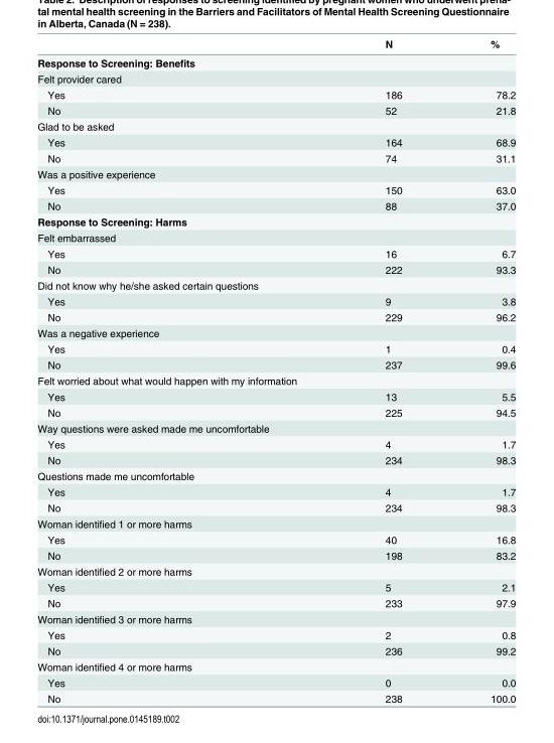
<table><thead><tr><td></td><td>N</td><td>%</td></tr></thead><tbody><tr><td colspan="3">Response to Screening: Benefits</td></tr><tr><td colspan="3">Felt provider cared</td></tr><tr><td>Yes</td><td>186</td><td>78.2</td></tr><tr><td>No</td><td>52</td><td>21.8</td></tr><tr><td colspan="3">Glad to be asked</td></tr><tr><td>Yes</td><td>164</td><td>68.9</td></tr><tr><td>No</td><td>74</td><td>31.1</td></tr><tr><td colspan="3">Was a positive experience</td></tr><tr><td>Yes</td><td>150</td><td>63.0</td></tr><tr><td>No</td><td>88</td><td>37.0</td></tr><tr><td colspan="3">Response to Screening: Harms</td></tr><tr><td colspan="3">Felt embarrassed</td></tr><tr><td>Yes</td><td>16</td><td>6.7</td></tr><tr><td>No</td><td>222</td><td>93.3</td></tr><tr><td colspan="3">Did not know why he/she asked certain questions</td></tr><tr><td>Yes</td><td>9</td><td>3.8</td></tr><tr><td>No</td><td>229</td><td>96.2</td></tr><tr><td colspan="3">Was a negative experience</td></tr><tr><td>Yes</td><td>1</td><td>0.4</td></tr><tr><td>No</td><td>237</td><td>99.6</td></tr><tr><td colspan="3">Felt worried about what would happen with my information</td></tr><tr><td>Yes</td><td>13</td><td>5.5</td></tr><tr><td>No</td><td>225</td><td>94.5</td></tr><tr><td colspan="3">Way questions were asked made me uncomfortable</td></tr><tr><td>Yes</td><td>4</td><td>1.7</td></tr><tr><td>No</td><td>234</td><td>98.3</td></tr><tr><td colspan="3">Questions made me uncomfortable</td></tr><tr><td>Yes</td><td>4</td><td>1.7</td></tr><tr><td>No</td><td>234</td><td>98.3</td></tr><tr><td colspan="3">Woman identified 1 or more harms</td></tr><tr><td>Yes</td><td>40</td><td>16.8</td></tr><tr><td>No</td><td>198</td><td>83.2</td></tr><tr><td colspan="3">Woman identified 2 or more harms</td></tr><tr><td>Yes</td><td>5</td><td>2.1</td></tr><tr><td>No</td><td>233</td><td>97.9</td></tr><tr><td colspan="3">Woman identified 3 or more harms</td></tr><tr><td>Yes</td><td>2</td><td>0.8</td></tr><tr><td>No</td><td>236</td><td>99.2</td></tr><tr><td colspan="3">Woman identified 4 or more harms</td></tr><tr><td>Yes</td><td>0</td><td>0.0</td></tr><tr><td>No</td><td>238</td><td>100.0</td></tr></tbody></table>